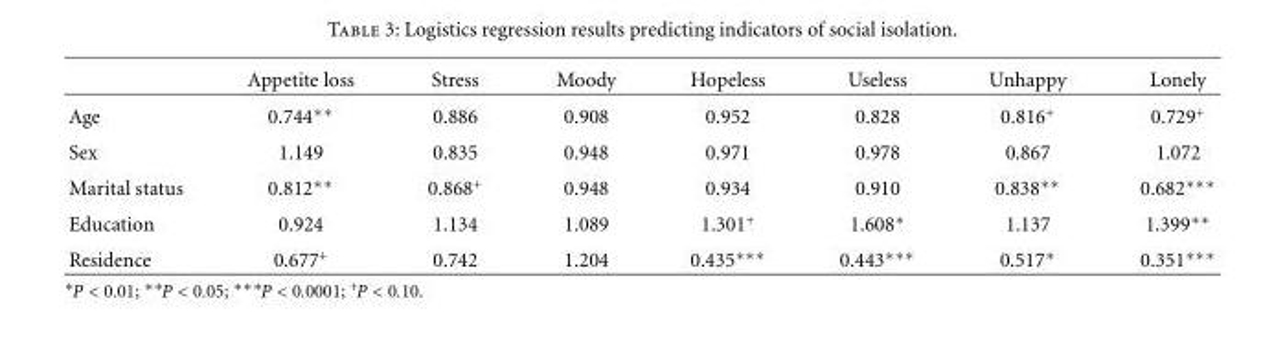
<table><thead><tr><td></td><td>Appetite loss</td><td>Stress</td><td>Moody</td><td>Hopeless</td><td>Useless</td><td>Unhappy</td><td>Lonely</td></tr></thead><tbody><tr><td>Age</td><td>0.744∗∗</td><td>0.886</td><td>0.908</td><td>0.952</td><td>0.828</td><td>0.816<sup>+</sup></td><td>0.729<sup>+</sup></td></tr><tr><td>Sex</td><td>1.149</td><td>0.835</td><td>0.948</td><td>0.971</td><td>0.978</td><td>0.867</td><td>1.072</td></tr><tr><td>Marital status</td><td>0.812∗∗</td><td>0.868<sup>+</sup></td><td>0.948</td><td>0.934</td><td>0.910</td><td>0.838∗∗</td><td>0.682∗∗∗</td></tr><tr><td>Education</td><td>0.924</td><td>1.134</td><td>1.089</td><td>1.301<sup>+</sup></td><td>1.608∗</td><td>1.137</td><td>1.399∗∗</td></tr><tr><td>Residence</td><td>0.677<sup>+</sup></td><td>0.742</td><td>1.204</td><td>0.435∗∗∗</td><td>0.443∗∗∗</td><td>0.517∗</td><td>0.351∗∗∗</td></tr></tbody></table>